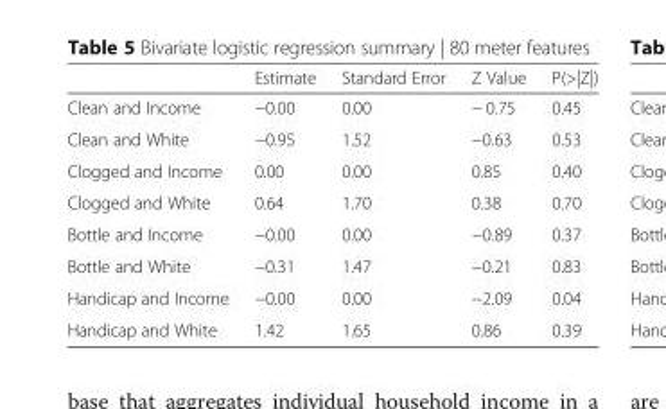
<table><thead><tr><td></td><td>Estimate</td><td>Standard Error</td><td>Z Value</td><td>P(&gt;|Z|)</td></tr></thead><tbody><tr><td>Clean and Income</td><td>−0.00</td><td>0.00</td><td>− 0.75</td><td>0.45</td></tr><tr><td>Clean and White</td><td>−0.95</td><td>1.52</td><td>−0.63</td><td>0.53</td></tr><tr><td>Clogged and Income</td><td>0.00</td><td>0.00</td><td>0.85</td><td>0.40</td></tr><tr><td>Clogged and White</td><td>0.64</td><td>1.70</td><td>0.38</td><td>0.70</td></tr><tr><td>Bottle and Income</td><td>−0.00</td><td>0.00</td><td>−0.89</td><td>0.37</td></tr><tr><td>Bottle and White</td><td>−0.31</td><td>1.47</td><td>−0.21</td><td>0.83</td></tr><tr><td>Handicap and Income</td><td>−0.00</td><td>0.00</td><td>−2.09</td><td>0.04</td></tr><tr><td>Handicap and White</td><td>1.42</td><td>1.65</td><td>0.86</td><td>0.39</td></tr></tbody></table>